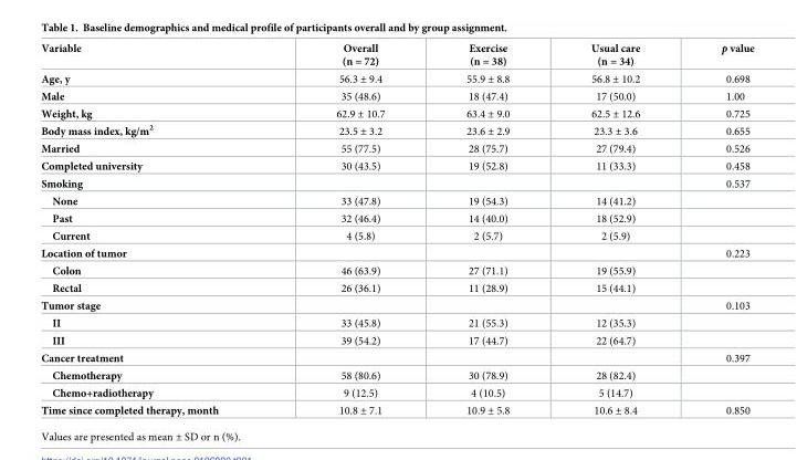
<table><thead><tr><td>Variable</td><td>Overall (n = 72)</td><td>Exercise (n = 38)</td><td>Usual care (n = 34)</td><td>p value</td></tr></thead><tbody><tr><td>Age, y</td><td>56.3 ± 9.4</td><td>55.9 ± 8.8</td><td>56.8 ± 10.2</td><td>0.698</td></tr><tr><td>Male</td><td>35 (48.6)</td><td>18 (47.4)</td><td>17 (50.0)</td><td>1.00</td></tr><tr><td>Weight, kg</td><td>62.9 ± 10.7</td><td>63.4 ± 9.0</td><td>62.5 ± 12.6</td><td>0.725</td></tr><tr><td>Body mass index, kg/m<sup>2</sup></td><td>23.5 ± 3.2</td><td>23.6 ± 2.9</td><td>23.3 ± 3.6</td><td>0.655</td></tr><tr><td>Married</td><td>55 (77.5)</td><td>28 (75.7)</td><td>27 (79.4)</td><td>0.526</td></tr><tr><td>Completed university</td><td>30 (43.5)</td><td>19 (52.8)</td><td>11 (33.3)</td><td>0.458</td></tr><tr><td>Smoking</td><td></td><td></td><td></td><td>0.537</td></tr><tr><td>None</td><td>33 (47.8)</td><td>19 (54.3)</td><td>14 (41.2)</td><td></td></tr><tr><td>Past</td><td>32 (46.4)</td><td>14 (40.0)</td><td>18 (52.9)</td><td></td></tr><tr><td>Current</td><td>4 (5.8)</td><td>2 (5.7)</td><td>2 (5.9)</td><td></td></tr><tr><td>Location of tumor</td><td></td><td></td><td></td><td>0.223</td></tr><tr><td>Colon</td><td>46 (63.9)</td><td>27 (71.1)</td><td>19 (55.9)</td><td></td></tr><tr><td>Rectal</td><td>26 (36.1)</td><td>11 (28.9)</td><td>15 (44.1)</td><td></td></tr><tr><td>Tumor stage</td><td></td><td></td><td></td><td>0.103</td></tr><tr><td>II</td><td>33 (45.8)</td><td>21 (55.3)</td><td>12 (35.3)</td><td></td></tr><tr><td>III</td><td>39 (54.2)</td><td>17 (44.7)</td><td>22 (64.7)</td><td></td></tr><tr><td>Cancer treatment</td><td></td><td></td><td></td><td>0.397</td></tr><tr><td>Chemotherapy</td><td>58 (80.6)</td><td>30 (78.9)</td><td>28 (82.4)</td><td></td></tr><tr><td>Chemo+radiotherapy</td><td>9 (12.5)</td><td>4 (10.5)</td><td>5 (14.7)</td><td></td></tr><tr><td>Time since completed therapy, month</td><td>10.8 ± 7.1</td><td>10.9 ± 5.8</td><td>10.6 ± 8.4</td><td>0.850</td></tr></tbody></table>